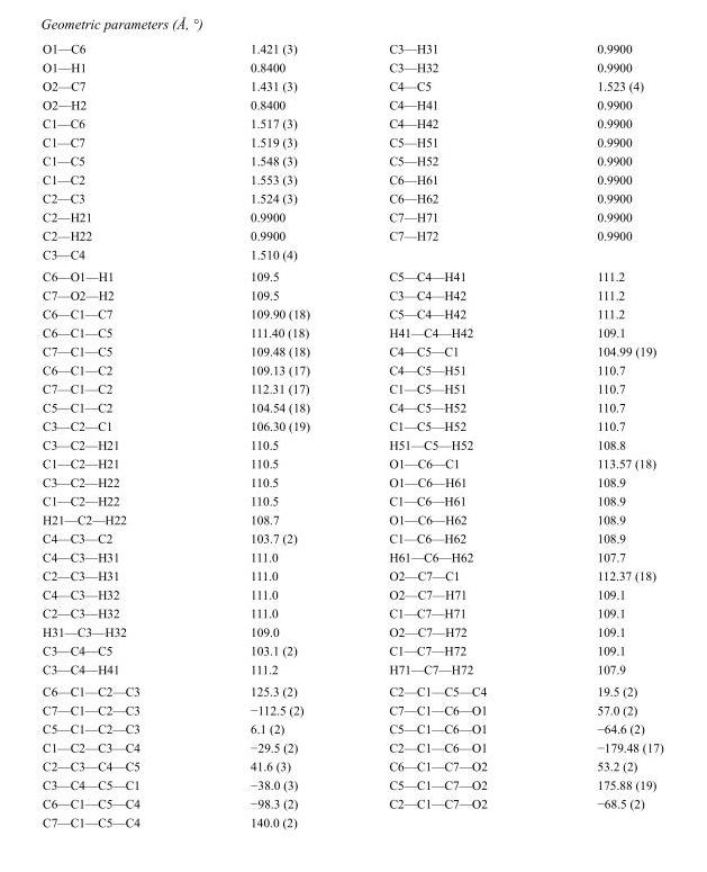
<table><tbody><tr><td>O1—C6</td><td>1.421 (3)</td><td>C3—H31</td><td>0.9900</td></tr><tr><td>O1—H1</td><td>0.8400</td><td>C3—H32</td><td>0.9900</td></tr><tr><td>O2—C7</td><td>1.431 (3)</td><td>C4—C5</td><td>1.523 (4)</td></tr><tr><td>O2—H2</td><td>0.8400</td><td>C4—H41</td><td>0.9900</td></tr><tr><td>C1—C6</td><td>1.517 (3)</td><td>C4—H42</td><td>0.9900</td></tr><tr><td>C1—C7</td><td>1.519 (3)</td><td>C5—H51</td><td>0.9900</td></tr><tr><td>C1—C5</td><td>1.548 (3)</td><td>C5—H52</td><td>0.9900</td></tr><tr><td>C1—C2</td><td>1.553 (3)</td><td>C6—H61</td><td>0.9900</td></tr><tr><td>C2—C3</td><td>1.524 (3)</td><td>C6—H62</td><td>0.9900</td></tr><tr><td>C2—H21</td><td>0.9900</td><td>C7—H71</td><td>0.9900</td></tr><tr><td>C2—H22</td><td>0.9900</td><td>C7—H72</td><td>0.9900</td></tr><tr><td>C3—C4</td><td>1.510 (4)</td><td></td><td></td></tr><tr><td>C6—O1—H1</td><td>109.5</td><td>C5—C4—H41</td><td>111.2</td></tr><tr><td>C7—O2—H2</td><td>109.5</td><td>C3—C4—H42</td><td>111.2</td></tr><tr><td>C6—C1—C7</td><td>109.90 (18)</td><td>C5—C4—H42</td><td>111.2</td></tr><tr><td>C6—C1—C5</td><td>111.40 (18)</td><td>H41—C4—H42</td><td>109.1</td></tr><tr><td>C7—C1—C5</td><td>109.48 (18)</td><td>C4—C5—C1</td><td>104.99 (19)</td></tr><tr><td>C6—C1—C2</td><td>109.13 (17)</td><td>C4—C5—H51</td><td>110.7</td></tr><tr><td>C7—C1—C2</td><td>112.31 (17)</td><td>C1—C5—H51</td><td>110.7</td></tr><tr><td>C5—C1—C2</td><td>104.54 (18)</td><td>C4—C5—H52</td><td>110.7</td></tr><tr><td>C3—C2—C1</td><td>106.30 (19)</td><td>C1—C5—H52</td><td>110.7</td></tr><tr><td>C3—C2—H21</td><td>110.5</td><td>H51—C5—H52</td><td>108.8</td></tr><tr><td>C1—C2—H21</td><td>110.5</td><td>O1—C6—C1</td><td>113.57 (18)</td></tr><tr><td>C3—C2—H22</td><td>110.5</td><td>O1—C6—H61</td><td>108.9</td></tr><tr><td>C1—C2—H22</td><td>110.5</td><td>C1—C6—H61</td><td>108.9</td></tr><tr><td>H21—C2—H22</td><td>108.7</td><td>O1—C6—H62</td><td>108.9</td></tr><tr><td>C4—C3—C2</td><td>103.7 (2)</td><td>C1—C6—H62</td><td>108.9</td></tr><tr><td>C4—C3—H31</td><td>111.0</td><td>H61—C6—H62</td><td>107.7</td></tr><tr><td>C2—C3—H31</td><td>111.0</td><td>O2—C7—C1</td><td>112.37 (18)</td></tr><tr><td>C4—C3—H32</td><td>111.0</td><td>O2—C7—H71</td><td>109.1</td></tr><tr><td>C2—C3—H32</td><td>111.0</td><td>C1—C7—H71</td><td>109.1</td></tr><tr><td>H31—C3—H32</td><td>109.0</td><td>O2—C7—H72</td><td>109.1</td></tr><tr><td>C3—C4—C5</td><td>103.1 (2)</td><td>C1—C7—H72</td><td>109.1</td></tr><tr><td>C3—C4—H41</td><td>111.2</td><td>H71—C7—H72</td><td>107.9</td></tr><tr><td>C6—C1—C2—C3</td><td>125.3 (2)</td><td>C2—C1—C5—C4</td><td>19.5 (2)</td></tr><tr><td>C7—C1—C2—C3</td><td>−112.5 (2)</td><td>C7—C1—C6—O1</td><td>57.0 (2)</td></tr><tr><td>C5—C1—C2—C3</td><td>6.1 (2)</td><td>C5—C1—C6—O1</td><td>−64.6 (2)</td></tr><tr><td>C1—C2—C3—C4</td><td>−29.5 (2)</td><td>C2—C1—C6—O1</td><td>−179.48 (17)</td></tr><tr><td>C2—C3—C4—C5</td><td>41.6 (3)</td><td>C6—C1—C7—O2</td><td>53.2 (2)</td></tr><tr><td>C3—C4—C5—C1</td><td>−38.0 (3)</td><td>C5—C1—C7—O2</td><td>175.88 (19)</td></tr><tr><td>C6—C1—C5—C4</td><td>−98.3 (2)</td><td>C2—C1—C7—O2</td><td>−68.5 (2)</td></tr><tr><td>C7—C1—C5—C4</td><td>140.0 (2)</td><td></td><td></td></tr></tbody></table>